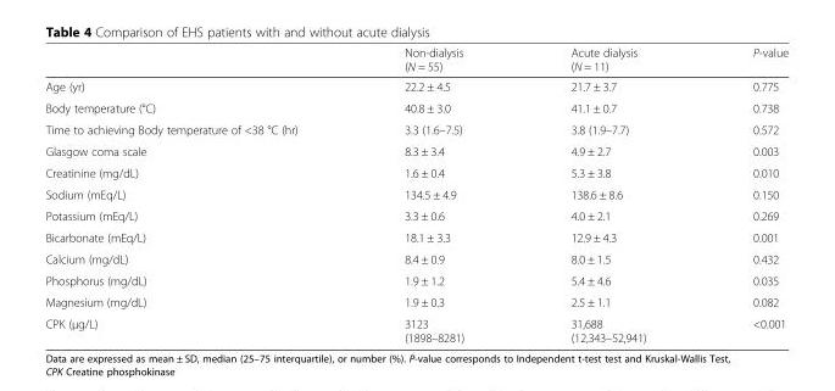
<table><thead><tr><td></td><td>Non-dialysis (N = 55)</td><td>Acute dialysis (N = 11)</td><td>P-value</td></tr></thead><tbody><tr><td>Age (yr)</td><td>22.2 ± 4.5</td><td>21.7 ± 3.7</td><td>0.775</td></tr><tr><td>Body temperature (°C)</td><td>40.8 ± 3.0</td><td>41.1 ± 0.7</td><td>0.738</td></tr><tr><td>Time to achieving Body temperature of &lt;38 °C (hr)</td><td>3.3 (1.6–7.5)</td><td>3.8 (1.9–7.7)</td><td>0.572</td></tr><tr><td>Glasgow coma scale</td><td>8.3 ± 3.4</td><td>4.9 ± 2.7</td><td>0.003</td></tr><tr><td>Creatinine (mg/dL)</td><td>1.6 ± 0.4</td><td>5.3 ± 3.8</td><td>0.010</td></tr><tr><td>Sodium (mEq/L)</td><td>134.5 ± 4.9</td><td>138.6 ± 8.6</td><td>0.150</td></tr><tr><td>Potassium (mEq/L)</td><td>3.3 ± 0.6</td><td>4.0 ± 2.1</td><td>0.269</td></tr><tr><td>Bicarbonate (mEq/L)</td><td>18.1 ± 3.3</td><td>12.9 ± 4.3</td><td>0.001</td></tr><tr><td>Calcium (mg/dL)</td><td>8.4 ± 0.9</td><td>8.0 ± 1.5</td><td>0.432</td></tr><tr><td>Phosphorus (mg/dL)</td><td>1.9 ± 1.2</td><td>5.4 ± 4.6</td><td>0.035</td></tr><tr><td>Magnesium (mg/dL)</td><td>1.9 ± 0.3</td><td>2.5 ± 1.1</td><td>0.082</td></tr><tr><td>CPK (μg/L)</td><td>3123 (1898–8281)</td><td>31,688 (12,343–52,941)</td><td>&lt;0.001</td></tr></tbody></table>